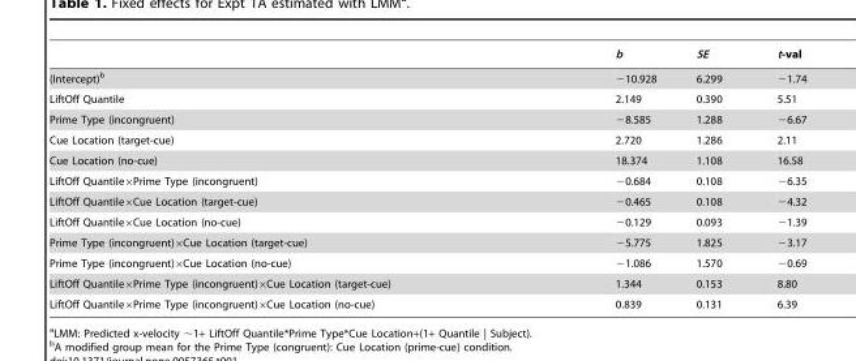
<table><thead><tr><td></td><td>b</td><td>SE</td><td>t-val</td></tr></thead><tbody><tr><td>(Intercept)<sup>b</sup></td><td>−10.928</td><td>6.299</td><td>−1.74</td></tr><tr><td>LiftOff Quantile</td><td>2.149</td><td>0.390</td><td>5.51</td></tr><tr><td>Prime Type (incongruent)</td><td>−8.585</td><td>1.288</td><td>−6.67</td></tr><tr><td>Cue Location (target-cue)</td><td>2.720</td><td>1.286</td><td>2.11</td></tr><tr><td>Cue Location (no-cue)</td><td>18.374</td><td>1.108</td><td>16.58</td></tr><tr><td>LiftOff Quantile×Prime Type (incongruent)</td><td>−0.684</td><td>0.108</td><td>−6.35</td></tr><tr><td>LiftOff Quantile×Cue Location (target-cue)</td><td>−0.465</td><td>0.108</td><td>−4.32</td></tr><tr><td>LiftOff Quantile×Cue Location (no-cue)</td><td>−0.129</td><td>0.093</td><td>−1.39</td></tr><tr><td>Prime Type (incongruent)×Cue Location (target-cue)</td><td>−5.775</td><td>1.825</td><td>−3.17</td></tr><tr><td>Prime Type (incongruent)×Cue Location (no-cue)</td><td>−1.086</td><td>1.570</td><td>−0.69</td></tr><tr><td>LiftOff Quantile×Prime Type (incongruent)×Cue Location (target-cue)</td><td>1.344</td><td>0.153</td><td>8.80</td></tr><tr><td>LiftOff Quantile×Prime Type (incongruent)×Cue Location (no-cue)</td><td>0.839</td><td>0.131</td><td>6.39</td></tr></tbody></table>